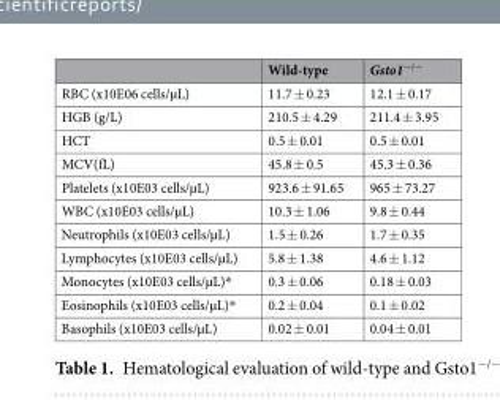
<table><thead><tr><td></td><td>Wild-type</td><td>Gsto1<sup>−/−</sup></td></tr></thead><tbody><tr><td>RBC (x10E06 cells/µL)</td><td>11.7 ± 0.23</td><td>12.1 ± 0.17</td></tr><tr><td>HGB (g/L)</td><td>210.5 ± 4.29</td><td>211.4 ± 3.95</td></tr><tr><td>HCT</td><td>0.5 ± 0.01</td><td>0.5 ± 0.01</td></tr><tr><td>MCV(fL)</td><td>45.8 ± 0.5</td><td>45.3 ± 0.36</td></tr><tr><td>Platelets (x10E03 cells/µL)</td><td>923.6 ± 91.65</td><td>965 ± 73.27</td></tr><tr><td>WBC (x10E03 cells/µL)</td><td>10.3 ± 1.06</td><td>9.8 ± 0.44</td></tr><tr><td>Neutrophils (x10E03 cells/µL)</td><td>1.5 ± 0.26</td><td>1.7 ± 0.35</td></tr><tr><td>Lymphocytes (x10E03 cells/µL)</td><td>5.8 ± 1.38</td><td>4.6 ± 1.12</td></tr><tr><td>Monocytes (x10E03 cells/µL)*</td><td>0.3 ± 0.06</td><td>0.18 ± 0.03</td></tr><tr><td>Eosinophils (x10E03 cells/µL)*</td><td>0.2 ± 0.04</td><td>0.1 ± 0.02</td></tr><tr><td>Basophils (x10E03 cells/µL)</td><td>0.02 ± 0.01</td><td>0.04 ± 0.01</td></tr></tbody></table>